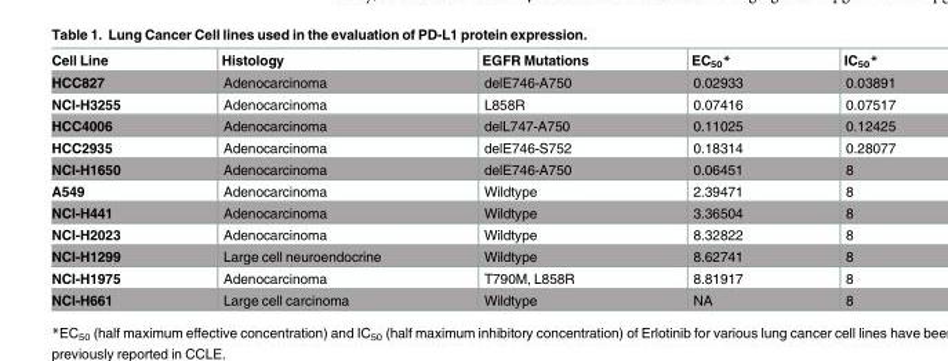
<table><thead><tr><td>Cell Line</td><td>Histology</td><td>EGFR Mutations</td><td>EC<sub>50</sub>*</td><td>IC<sub>50</sub>*</td></tr></thead><tbody><tr><td>HCC827</td><td>Adenocarcinoma</td><td>delE746-A750</td><td>0.02933</td><td>0.03891</td></tr><tr><td>NCI-H3255</td><td>Adenocarcinoma</td><td>L858R</td><td>0.07416</td><td>0.07517</td></tr><tr><td>HCC4006</td><td>Adenocarcinoma</td><td>delL747-A750</td><td>0.11025</td><td>0.12425</td></tr><tr><td>HCC2935</td><td>Adenocarcinoma</td><td>delE746-S752</td><td>0.18314</td><td>0.28077</td></tr><tr><td>NCI-H1650</td><td>Adenocarcinoma</td><td>delE746-A750</td><td>0.06451</td><td>8</td></tr><tr><td>A549</td><td>Adenocarcinoma</td><td>Wildtype</td><td>2.39471</td><td>8</td></tr><tr><td>NCI-H441</td><td>Adenocarcinoma</td><td>Wildtype</td><td>3.36504</td><td>8</td></tr><tr><td>NCI-H2023</td><td>Adenocarcinoma</td><td>Wildtype</td><td>8.32822</td><td>8</td></tr><tr><td>NCI-H1299</td><td>Large cell neuroendocrine</td><td>Wildtype</td><td>8.62741</td><td>8</td></tr><tr><td>NCI-H1975</td><td>Adenocarcinoma</td><td>T790M, L858R</td><td>8.81917</td><td>8</td></tr><tr><td>NCI-H661</td><td>Large cell carcinoma</td><td>Wildtype</td><td>NA</td><td>8</td></tr></tbody></table>